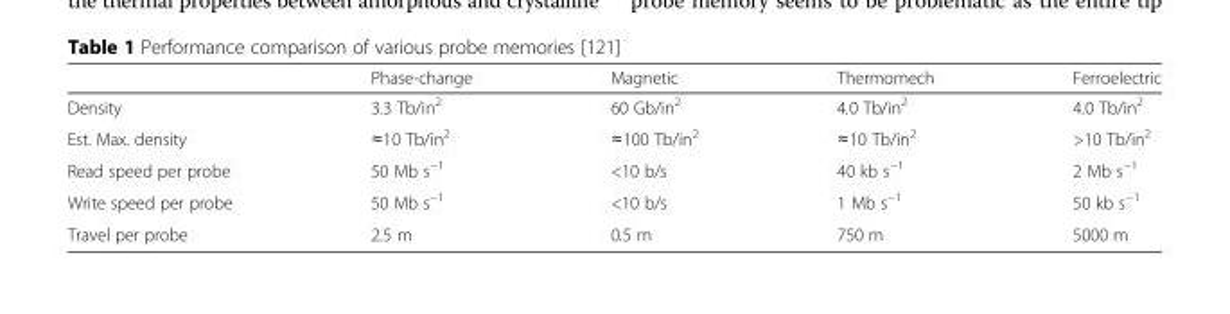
<table><thead><tr><td></td><td>Phase-change</td><td>Magnetic</td><td>Thermomech</td><td>Ferroelectric</td></tr></thead><tbody><tr><td>Density</td><td>3.3 Tb/in<sup>2</sup></td><td>60 Gb/in<sup>2</sup></td><td>4.0 Tb/in<sup>2</sup></td><td>4.0 Tb/in<sup>2</sup></td></tr><tr><td>Est. Max. density</td><td>≈10 Tb/in<sup>2</sup></td><td>≈100 Tb/in<sup>2</sup></td><td>≈10 Tb/in<sup>2</sup></td><td>&gt;10 Tb/in<sup>2</sup></td></tr><tr><td>Read speed per probe</td><td>50 Mb s<sup>−1</sup></td><td>&lt;10 b/s</td><td>40 kb s<sup>−1</sup></td><td>2 Mb s<sup>−1</sup></td></tr><tr><td>Write speed per probe</td><td>50 Mb s<sup>−1</sup></td><td>&lt;10 b/s</td><td>1 Mb s<sup>−1</sup></td><td>50 kb s<sup>−1</sup></td></tr><tr><td>Travel per probe</td><td>2.5 m</td><td>0.5 m</td><td>750 m</td><td>5000 m</td></tr></tbody></table>